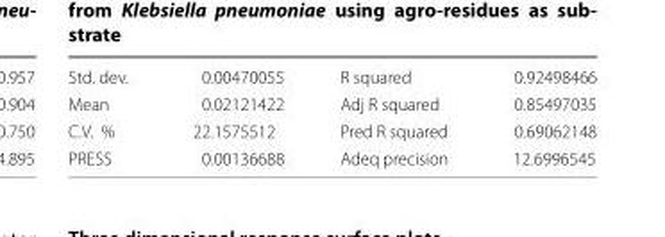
<table><tbody><tr><td>Std. dev.</td><td>0.00470055</td><td>R squared</td><td>0.92498466</td></tr><tr><td>Mean</td><td>0.02121422</td><td>Adj R squared</td><td>0.85497035</td></tr><tr><td>C.V. %</td><td>22.1575512</td><td>Pred R squared</td><td>0.69062148</td></tr><tr><td>PRESS</td><td>0.00136688</td><td>Adeq precision</td><td>12.6996545</td></tr></tbody></table>